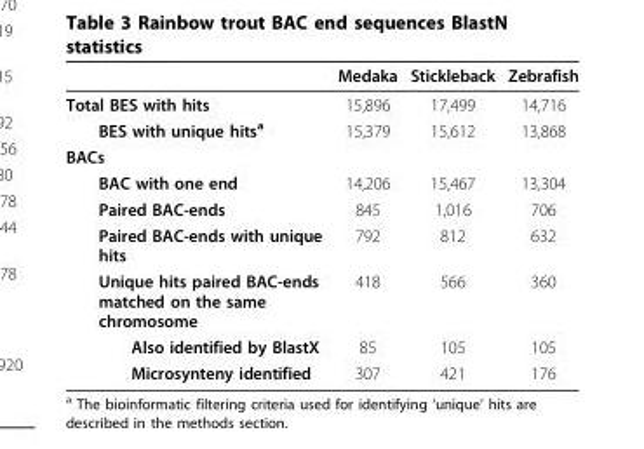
<table><thead><tr><td></td><td>Medaka</td><td>Stickleback</td><td>Zebrafish</td></tr></thead><tbody><tr><td>Total BES with hits</td><td>15,896</td><td>17,499</td><td>14,716</td></tr><tr><td>BES with unique hits<sup>a</sup></td><td>15,379</td><td>15,612</td><td>13,868</td></tr><tr><td colspan="4">BACs</td></tr><tr><td>BAC with one end</td><td>14,206</td><td>15,467</td><td>13,304</td></tr><tr><td>Paired BAC-ends</td><td>845</td><td>1,016</td><td>706</td></tr><tr><td>Paired BAC-ends with unique hits</td><td>792</td><td>812</td><td>632</td></tr><tr><td>Unique hits paired BAC-ends matched on the same chromosome</td><td>418</td><td>566</td><td>360</td></tr><tr><td>Also identified by BlastX</td><td>85</td><td>105</td><td>105</td></tr><tr><td>Microsynteny identified</td><td>307</td><td>421</td><td>176</td></tr></tbody></table>